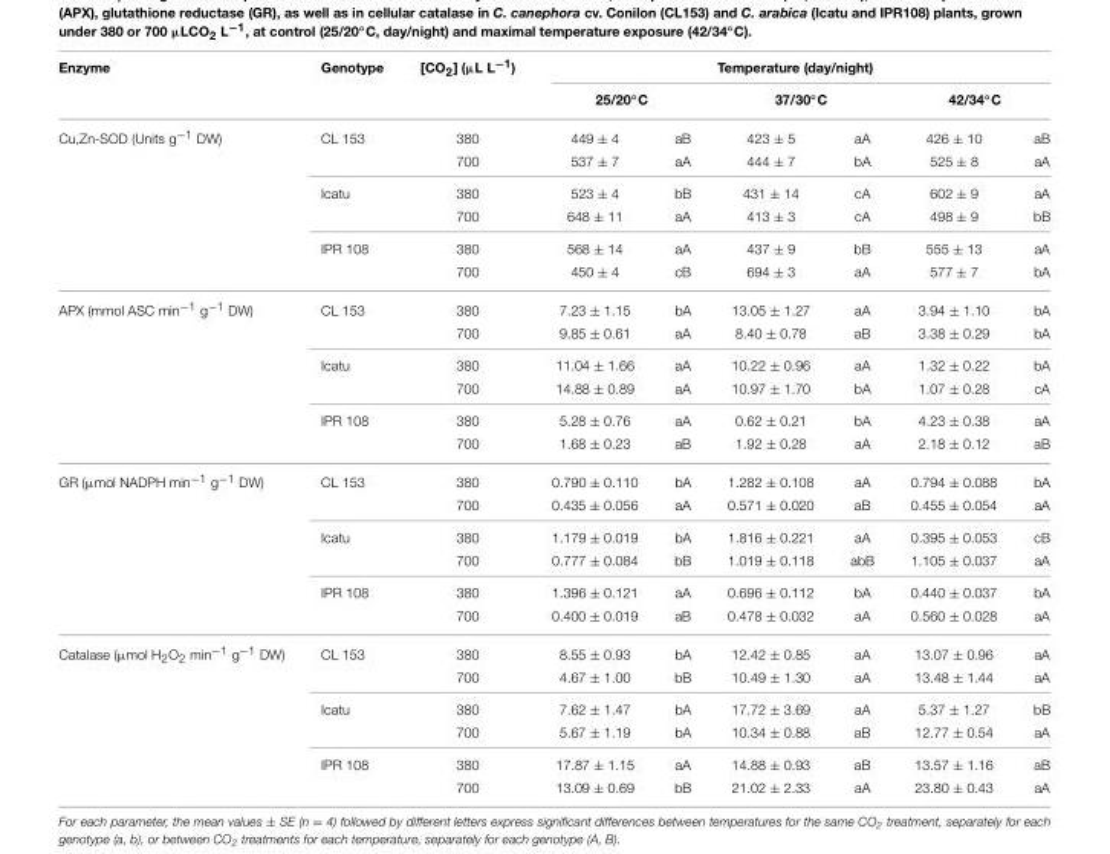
<table><thead><tr><td rowspan="3">Enzyme Cu,Zn-SOD (Units g<sup>−1</sup> DW)</td><td rowspan="3">Genotype CL 153</td><td rowspan="3">[CO<sub>2</sub>] (µL L<sup>−1</sup>) 380</td><td colspan="6">Temperature (day/night)</td></tr><tr><td colspan="2">25/20◦C</td><td colspan="2">37/30◦C</td><td colspan="2">42/34◦C</td></tr><tr><td>449 ± 4</td><td>aB</td><td>423 ± 5</td><td>aA</td><td>426 ± 10</td><td>aB</td></tr></thead><tbody><tr><td></td><td></td><td>700</td><td>537 ± 7</td><td>aA</td><td>444 ± 7</td><td>bA</td><td>525 ± 8</td><td>aA</td></tr><tr><td></td><td>Icatu</td><td>380</td><td>523 ± 4</td><td>bB</td><td>431 ± 14</td><td>cA</td><td>602 ± 9</td><td>aA</td></tr><tr><td></td><td></td><td>700</td><td>648 ± 11</td><td>aA</td><td>413 ± 3</td><td>cA</td><td>498 ± 9</td><td>bB</td></tr><tr><td></td><td>IPR 108</td><td>380</td><td>568 ± 14</td><td>aA</td><td>437 ± 9</td><td>bB</td><td>555 ± 13</td><td>aA</td></tr><tr><td></td><td></td><td>700</td><td>450 ± 4</td><td>cB</td><td>694 ± 3</td><td>aA</td><td>577 ± 7</td><td>bA</td></tr><tr><td rowspan="6">APX (mmol ASC min<sup>−1</sup> g<sup>−1</sup> DW)</td><td>CL 153</td><td>380</td><td>7.23 ± 1.15</td><td>bA</td><td>13.05 ± 1.27</td><td>aA</td><td>3.94 ± 1.10</td><td>bA</td></tr><tr><td></td><td>700</td><td>9.85 ± 0.61</td><td>aA</td><td>8.40 ± 0.78</td><td>aB</td><td>3.38 ± 0.29</td><td>bA</td></tr><tr><td>Icatu</td><td>380</td><td>11.04 ± 1.66</td><td>aA</td><td>10.22 ± 0.96</td><td>aA</td><td>1.32 ± 0.22</td><td>bA</td></tr><tr><td></td><td>700</td><td>14.88 ± 0.89</td><td>aA</td><td>10.97 ± 1.70</td><td>bA</td><td>1.07 ± 0.28</td><td>cA</td></tr><tr><td>IPR 108</td><td>380</td><td>5.28 ± 0.76</td><td>aA</td><td>0.62 ± 0.21</td><td>bA</td><td>4.23 ± 0.38</td><td>aA</td></tr><tr><td></td><td>700</td><td>1.68 ± 0.23</td><td>aB</td><td>1.92 ± 0.28</td><td>aA</td><td>2.18 ± 0.12</td><td>aB</td></tr><tr><td rowspan="6">GR (µmol NADPH min<sup>−1</sup> g<sup>−1</sup> DW)</td><td>CL 153</td><td>380</td><td>0.790 ± 0.110</td><td>bA</td><td>1.282 ± 0.108</td><td>aA</td><td>0.794 ± 0.088</td><td>bA</td></tr><tr><td></td><td>700</td><td>0.435 ± 0.056</td><td>aA</td><td>0.571 ± 0.020</td><td>aB</td><td>0.455 ± 0.054</td><td>aA</td></tr><tr><td>Icatu</td><td>380</td><td>1.179 ± 0.019</td><td>bA</td><td>1.816 ± 0.221</td><td>aA</td><td>0.395 ± 0.053</td><td>cB</td></tr><tr><td></td><td>700</td><td>0.777 ± 0.084</td><td>bB</td><td>1.019 ± 0.118</td><td>abB</td><td>1.105 ± 0.037</td><td>aA</td></tr><tr><td>IPR 108</td><td>380</td><td>1.396 ± 0.121</td><td>aA</td><td>0.696 ± 0.112</td><td>bA</td><td>0.440 ± 0.037</td><td>bA</td></tr><tr><td></td><td>700</td><td>0.400 ± 0.019</td><td>aB</td><td>0.478 ± 0.032</td><td>aA</td><td>0.560 ± 0.028</td><td>aA</td></tr><tr><td rowspan="6">Catalase (µmol H<sub>2</sub>O<sub>2</sub> min<sup>−1</sup> g<sup>−1</sup> DW)</td><td>CL 153</td><td>380</td><td>8.55 ± 0.93</td><td>bA</td><td>12.42 ± 0.85</td><td>aA</td><td>13.07 ± 0.96</td><td>aA</td></tr><tr><td></td><td>700</td><td>4.67 ± 1.00</td><td>bB</td><td>10.49 ± 1.30</td><td>aA</td><td>13.48 ± 1.44</td><td>aA</td></tr><tr><td>Icatu</td><td>380</td><td>7.62 ± 1.47</td><td>bA</td><td>17.72 ± 3.69</td><td>aA</td><td>5.37 ± 1.27</td><td>bB</td></tr><tr><td></td><td>700</td><td>5.67 ± 1.19</td><td>bA</td><td>10.34 ± 0.88</td><td>aB</td><td>12.77 ± 0.54</td><td>aA</td></tr><tr><td>IPR 108</td><td>380</td><td>17.87 ± 1.15</td><td>aA</td><td>14.88 ± 0.93</td><td>aB</td><td>13.57 ± 1.16</td><td>aB</td></tr><tr><td></td><td>700</td><td>13.09 ± 0.69</td><td>bB</td><td>21.02 ± 2.33</td><td>aA</td><td>23.80 ± 0.43</td><td>aA</td></tr></tbody></table>